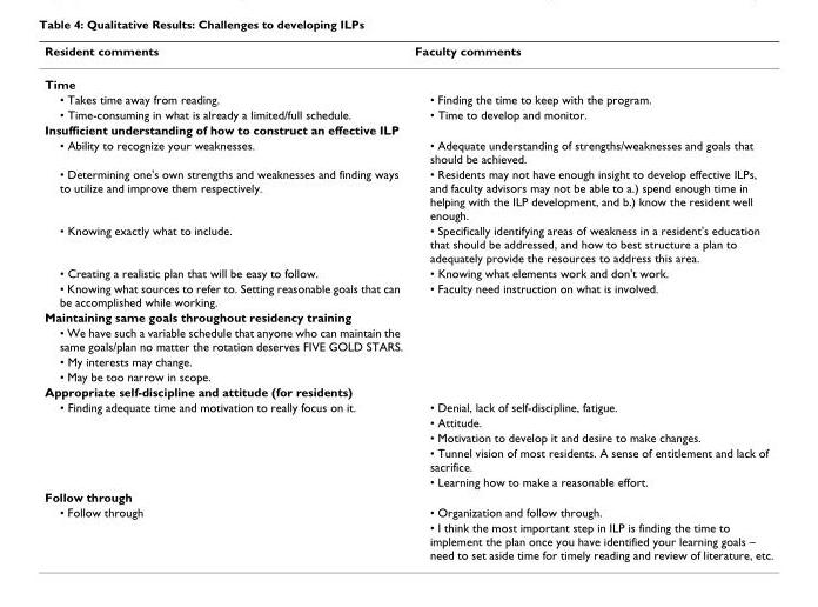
<table><thead><tr><td>Resident comments</td><td>Faculty comments</td></tr></thead><tbody><tr><td colspan="2">Time</td></tr><tr><td>• Takes time away from reading.</td><td>• Finding the time to keep with the program.</td></tr><tr><td>• Time-consuming in what is already a limited/full schedule.</td><td>• Time to develop and monitor.</td></tr><tr><td colspan="2">Insufficient understanding of how to construct an effective ILP</td></tr><tr><td>• Ability to recognize your weaknesses.</td><td>• Adequate understanding of strengths/weaknesses and goals that should be achieved.</td></tr><tr><td>• Determining one&#x27;s own strengths and weaknesses and finding ways to utilize and improve them respectively.</td><td>• Residents may not have enough insight to develop effective ILPs, and faculty advisors may not be able to a.) spend enough time in helping with the ILP development, and b.) know the resident well enough.</td></tr><tr><td>• Knowing exactly what to include.</td><td>• Specifically identifying areas of weakness in a resident&#x27;s education that should be addressed, and how to best structure a plan to adequately provide the resources to address this area.</td></tr><tr><td>• Creating a realistic plan that will be easy to follow.</td><td>• Knowing what elements work and don&#x27;t work.</td></tr><tr><td>• Knowing what sources to refer to. Setting reasonable goals that can be accomplished while working.</td><td>• Faculty need instruction on what is involved.</td></tr><tr><td colspan="2">Maintaining same goals throughout residency training</td></tr><tr><td colspan="2">• We have such a variable schedule that anyone who can maintain the same goals/plan no matter the rotation deserves FIVE GOLD STARS.</td></tr><tr><td colspan="2">• My interests may change.</td></tr><tr><td colspan="2">• May be too narrow in scope.</td></tr><tr><td colspan="2">Appropriate self-discipline and attitude (for residents)</td></tr><tr><td rowspan="5">• Finding adequate time and motivation to really focus on it.</td><td>• Denial, lack of self-discipline, fatigue.</td></tr><tr><td>• Attitude.</td></tr><tr><td>• Motivation to develop it and desire to make changes.</td></tr><tr><td>• Tunnel vision of most residents. A sense of entitlement and lack of sacrifice.</td></tr><tr><td>• Learning how to make a reasonable effort.</td></tr><tr><td colspan="2">Follow through</td></tr><tr><td rowspan="2">• Follow through</td><td>• Organization and follow through.</td></tr><tr><td>• I think the most important step in ILP is finding the time to implement the plan once you have identified your learning goals – need to set aside time for timely reading and review of literature, etc.</td></tr></tbody></table>